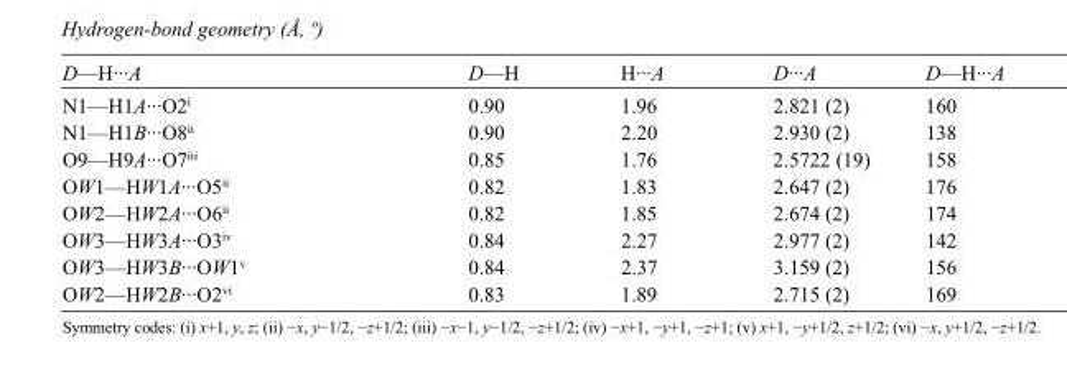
<table><tbody><tr><td>D—H···A</td><td>D—H</td><td>H···A</td><td>D···A</td><td>D—H···A</td></tr><tr><td>N1—H1A···O2<sup>i</sup></td><td>0.90</td><td>1.96</td><td>2.821 (2)</td><td>160</td></tr><tr><td>N1—H1B···O8<sup>ii</sup></td><td>0.90</td><td>2.20</td><td>2.930 (2)</td><td>138</td></tr><tr><td>O9—H9A···O7<sup>iii</sup></td><td>0.85</td><td>1.76</td><td>2.5722 (19)</td><td>158</td></tr><tr><td>OW1—HW1A···O5<sup>ii</sup></td><td>0.82</td><td>1.83</td><td>2.647 (2)</td><td>176</td></tr><tr><td>OW2—HW2A···O6<sup>ii</sup></td><td>0.82</td><td>1.85</td><td>2.674 (2)</td><td>174</td></tr><tr><td>OW3—HW3A···O3<sup>iv</sup></td><td>0.84</td><td>2.27</td><td>2.977 (2)</td><td>142</td></tr><tr><td>OW3—HW3B···OW1<sup>v</sup></td><td>0.84</td><td>2.37</td><td>3.159 (2)</td><td>156</td></tr><tr><td>OW2—HW2B···O2<sup>vi</sup></td><td>0.83</td><td>1.89</td><td>2.715 (2)</td><td>169</td></tr></tbody></table>